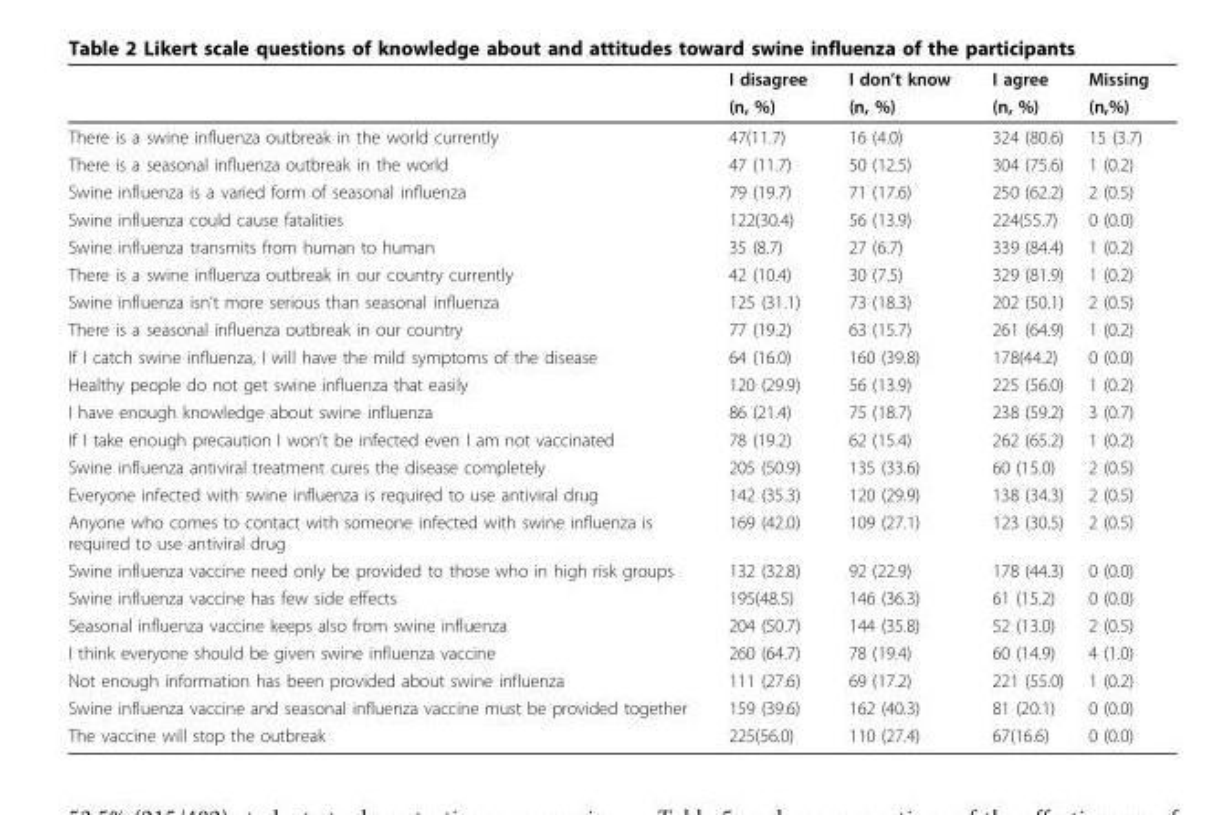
<table><thead><tr><td rowspan="2"></td><td rowspan="2">I disagree (n, %)</td><td rowspan="2">I don’t know (n, %)</td><td rowspan="2">I agree (n, %)</td><td rowspan="2">Missing (n,%)</td></tr><tr></tr></thead><tbody><tr><td>There is a swine influenza outbreak in the world currently</td><td>47(11.7)</td><td>16 (4.0)</td><td>324 (80.6)</td><td>15 (3.7)</td></tr><tr><td>There is a seasonal influenza outbreak in the world</td><td>47 (11.7)</td><td>50 (12.5)</td><td>304 (75.6)</td><td>1 (0.2)</td></tr><tr><td>Swine influenza is a varied form of seasonal influenza</td><td>79 (19.7)</td><td>71 (17.6)</td><td>250 (62.2)</td><td>2 (0.5)</td></tr><tr><td>Swine influenza could cause fatalities</td><td>122(30.4)</td><td>56 (13.9)</td><td>224(55.7)</td><td>0 (0.0)</td></tr><tr><td>Swine influenza transmits from human to human</td><td>35 (8.7)</td><td>27 (6.7)</td><td>339 (84.4)</td><td>1 (0.2)</td></tr><tr><td>There is a swine influenza outbreak in our country currently</td><td>42 (10.4)</td><td>30 (7.5)</td><td>329 (81.9)</td><td>1 (0.2)</td></tr><tr><td>Swine influenza isn’t more serious than seasonal influenza</td><td>125 (31.1)</td><td>73 (18.3)</td><td>202 (50.1)</td><td>2 (0.5)</td></tr><tr><td>There is a seasonal influenza outbreak in our country</td><td>77 (19.2)</td><td>63 (15.7)</td><td>261 (64.9)</td><td>1 (0.2)</td></tr><tr><td>If I catch swine influenza, I will have the mild symptoms of the disease</td><td>64 (16.0)</td><td>160 (39.8)</td><td>178(44.2)</td><td>0 (0.0)</td></tr><tr><td>Healthy people do not get swine influenza that easily</td><td>120 (29.9)</td><td>56 (13.9)</td><td>225 (56.0)</td><td>1 (0.2)</td></tr><tr><td>I have enough knowledge about swine influenza</td><td>86 (21.4)</td><td>75 (18.7)</td><td>238 (59.2)</td><td>3 (0.7)</td></tr><tr><td>If I take enough precaution I won’t be infected even I am not vaccinated</td><td>78 (19.2)</td><td>62 (15.4)</td><td>262 (65.2)</td><td>1 (0.2)</td></tr><tr><td>Swine influenza antiviral treatment cures the disease completely</td><td>205 (50.9)</td><td>135 (33.6)</td><td>60 (15.0)</td><td>2 (0.5)</td></tr><tr><td>Everyone infected with swine influenza is required to use antiviral drug</td><td>142 (35.3)</td><td>120 (29.9)</td><td>138 (34.3)</td><td>2 (0.5)</td></tr><tr><td>Anyone who comes to contact with someone infected with swine influenza is required to use antiviral drug</td><td>169 (42.0)</td><td>109 (27.1)</td><td>123 (30.5)</td><td>2 (0.5)</td></tr><tr><td>Swine influenza vaccine need only be provided to those who in high risk groups</td><td>132 (32.8)</td><td>92 (22.9)</td><td>178 (44.3)</td><td>0 (0.0)</td></tr><tr><td>Swine influenza vaccine has few side effects</td><td>195(48.5)</td><td>146 (36.3)</td><td>61 (15.2)</td><td>0 (0.0)</td></tr><tr><td>Seasonal influenza vaccine keeps also from swine influenza</td><td>204 (50.7)</td><td>144 (35.8)</td><td>52 (13.0)</td><td>2 (0.5)</td></tr><tr><td>I think everyone should be given swine influenza vaccine</td><td>260 (64.7)</td><td>78 (19.4)</td><td>60 (14.9)</td><td>4 (1.0)</td></tr><tr><td>Not enough information has been provided about swine influenza</td><td>111 (27.6)</td><td>69 (17.2)</td><td>221 (55.0)</td><td>1 (0.2)</td></tr><tr><td>Swine influenza vaccine and seasonal influenza vaccine must be provided together</td><td>159 (39.6)</td><td>162 (40.3)</td><td>81 (20.1)</td><td>0 (0.0)</td></tr><tr><td>The vaccine will stop the outbreak</td><td>225(56.0)</td><td>110 (27.4)</td><td>67(16.6)</td><td>0 (0.0)</td></tr></tbody></table>